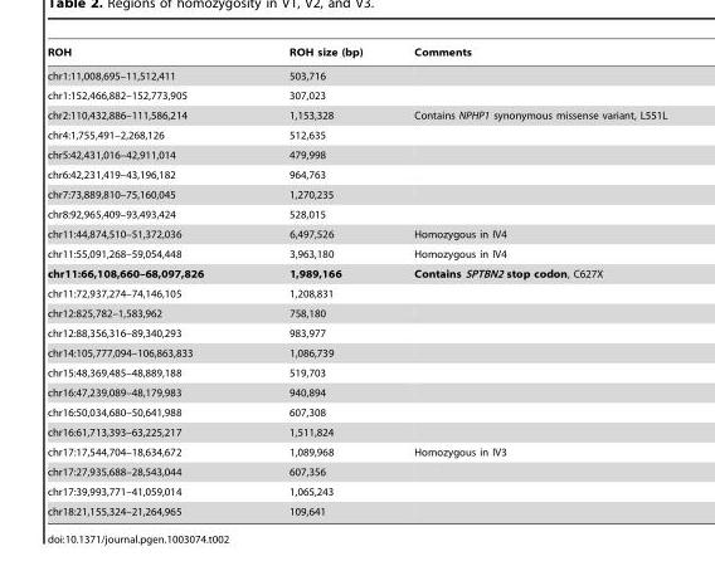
<table><thead><tr><td>ROH</td><td>ROH size (bp)</td><td>Comments</td></tr></thead><tbody><tr><td>chr1:11,008,695–11,512,411</td><td>503,716</td><td></td></tr><tr><td>chr1:152,466,882–152,773,905</td><td>307,023</td><td></td></tr><tr><td>chr2:110,432,886–111,586,214</td><td>1,153,328</td><td>Contains NPHP1 synonymous missense variant, L551L</td></tr><tr><td>chr4:1,755,491–2,268,126</td><td>512,635</td><td></td></tr><tr><td>chr5:42,431,016–42,911,014</td><td>479,998</td><td></td></tr><tr><td>chr6:42,231,419–43,196,182</td><td>964,763</td><td></td></tr><tr><td>chr7:73,889,810–75,160,045</td><td>1,270,235</td><td></td></tr><tr><td>chr8:92,965,409–93,493,424</td><td>528,015</td><td></td></tr><tr><td>chr11:44,874,510–51,372,036</td><td>6,497,526</td><td>Homozygous in IV4</td></tr><tr><td>chr11:55,091,268–59,054,448</td><td>3,963,180</td><td>Homozygous in IV4</td></tr><tr><td>chr11:66,108,660–68,097,826</td><td>1,989,166</td><td>Contains SPTBN2 stop codon, C627X</td></tr><tr><td>chr11:72,937,274–74,146,105</td><td>1,208,831</td><td></td></tr><tr><td>chr12:825,782–1,583,962</td><td>758,180</td><td></td></tr><tr><td>chr12:88,356,316–89,340,293</td><td>983,977</td><td></td></tr><tr><td>chr14:105,777,094–106,863,833</td><td>1,086,739</td><td></td></tr><tr><td>chr15:48,369,485–48,889,188</td><td>519,703</td><td></td></tr><tr><td>chr16:47,239,089–48,179,983</td><td>940,894</td><td></td></tr><tr><td>chr16:50,034,680–50,641,988</td><td>607,308</td><td></td></tr><tr><td>chr16:61,713,393–63,225,217</td><td>1,511,824</td><td></td></tr><tr><td>chr17:17,544,704–18,634,672</td><td>1,089,968</td><td>Homozygous in IV3</td></tr><tr><td>chr17:27,935,688–28,543,044</td><td>607,356</td><td></td></tr><tr><td>chr17:39,993,771–41,059,014</td><td>1,065,243</td><td></td></tr><tr><td>chr18:21,155,324–21,264,965</td><td>109,641</td><td></td></tr></tbody></table>